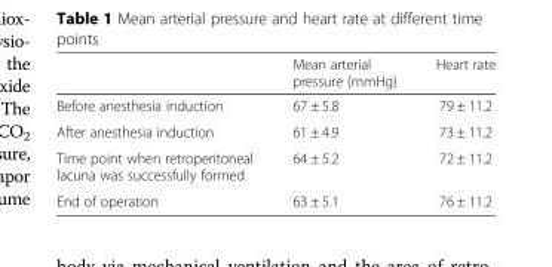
<table><thead><tr><td></td><td>Mean arterial pressure (mmHg)</td><td>Heart rate</td></tr></thead><tbody><tr><td>Before anesthesia induction</td><td>67 ± 5.8</td><td>79 ± 11.2</td></tr><tr><td>After anesthesia induction</td><td>61 ± 4.9</td><td>73 ± 11.2</td></tr><tr><td>Time point when retroperitoneal lacuna was successfully formed</td><td>64 ± 5.2</td><td>72 ± 11.2</td></tr><tr><td>End of operation</td><td>63 ± 5.1</td><td>76 ± 11.2</td></tr></tbody></table>